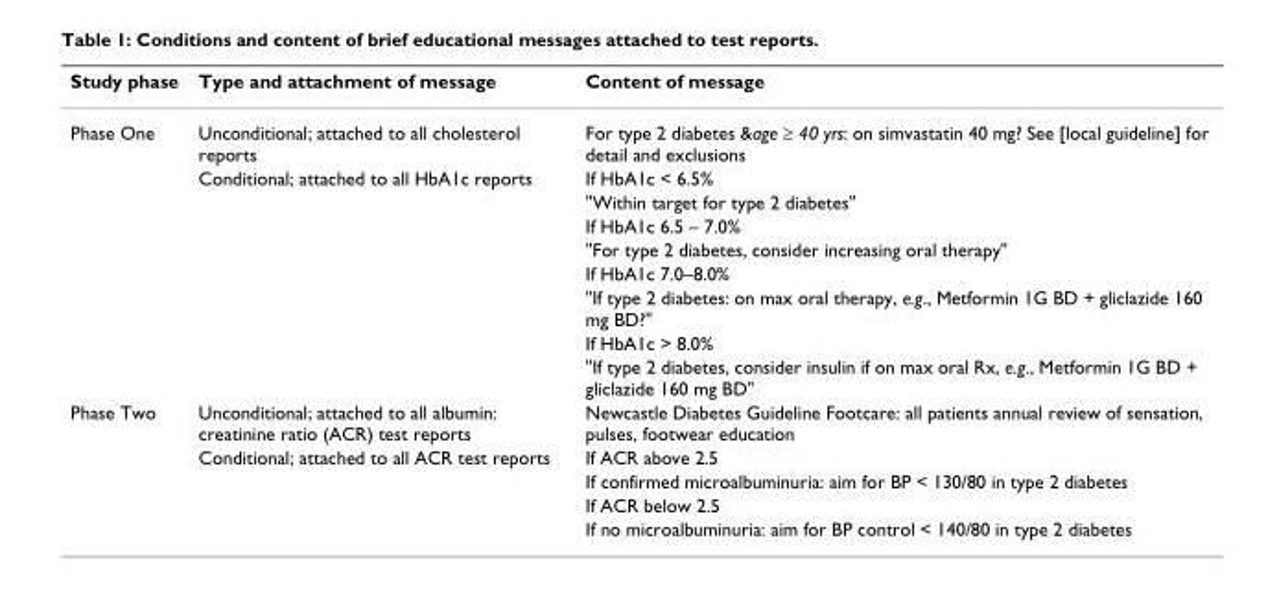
<table><thead><tr><td>Study phase</td><td>Type and attachment of message</td><td>Content of message</td></tr></thead><tbody><tr><td rowspan="9">Phase One</td><td>Unconditional; attached to all cholesterol reports</td><td>For type 2 diabetes &amp;age ≥ 40 yrs: on simvastatin 40 mg? See [local guideline] for detail and exclusions</td></tr><tr><td>Conditional; attached to all HbA1c reports</td><td>If HbA1c &lt; 6.5%</td></tr><tr><td></td><td>&quot;Within target for type 2 diabetes&quot;</td></tr><tr><td></td><td>If HbA1c 6.5 – 7.0%</td></tr><tr><td></td><td>&quot;For type 2 diabetes, consider increasing oral therapy&quot;</td></tr><tr><td></td><td>If HbA1c 7.0–8.0%</td></tr><tr><td></td><td>&quot;If type 2 diabetes: on max oral therapy, e.g., Metformin 1G BD + gliclazide 160 mg BD?&quot;</td></tr><tr><td></td><td>If HbA1c &gt; 8.0%</td></tr><tr><td></td><td>&quot;If type 2 diabetes, consider insulin if on max oral Rx, e.g., Metformin 1G BD + gliclazide 160 mg BD&quot;</td></tr><tr><td rowspan="5">Phase Two</td><td>Unconditional; attached to all albumin: creatinine ratio (ACR) test reports</td><td>Newcastle Diabetes Guideline Footcare: all patients annual review of sensation, pulses, footwear education</td></tr><tr><td>Conditional; attached to all ACR test reports</td><td>If ACR above 2.5</td></tr><tr><td></td><td>If confirmed microalbuminuria: aim for BP &lt; 130/80 in type 2 diabetes</td></tr><tr><td></td><td>If ACR below 2.5</td></tr><tr><td></td><td>If no microalbuminuria: aim for BP control &lt; 140/80 in type 2 diabetes</td></tr></tbody></table>